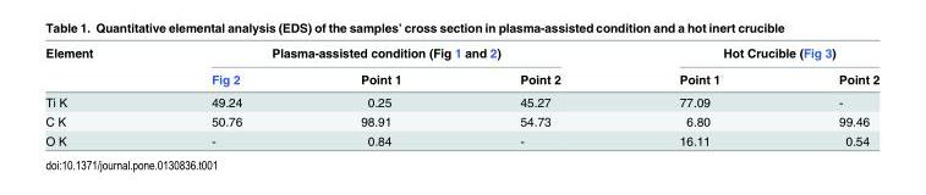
<table><thead><tr><td rowspan="2">Element</td><td colspan="3">Plasma-assisted condition (Fig 1 and 2)</td><td colspan="2">Hot Crucible (Fig 3)</td></tr><tr><td>Fig 2</td><td>Point 1</td><td>Point 2</td><td>Point 1</td><td>Point 2</td></tr></thead><tbody><tr><td>Ti K</td><td>49.24</td><td>0.25</td><td>45.27</td><td>77.09</td><td>-</td></tr><tr><td>C K</td><td>50.76</td><td>98.91</td><td>54.73</td><td>6.80</td><td>99.46</td></tr><tr><td>O K</td><td>-</td><td>0.84</td><td>-</td><td>16.11</td><td>0.54</td></tr></tbody></table>